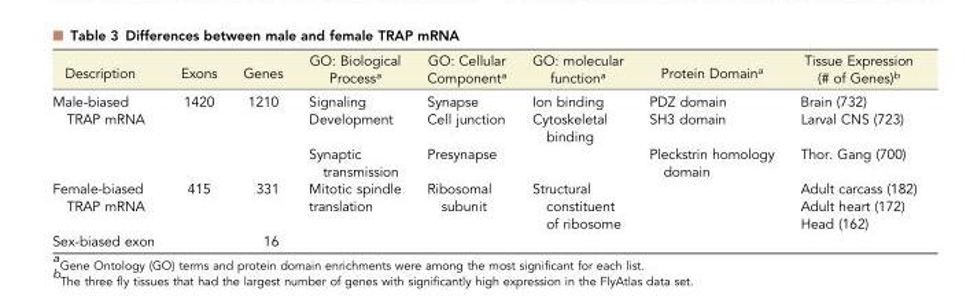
<table><thead><tr><td>Description</td><td>Exons</td><td>Genes</td><td>GO: Biological Process<sup>a</sup></td><td>GO: Cellular Component<sup>a</sup></td><td>GO: molecular function<sup>a</sup></td><td>Protein Domain<sup>a</sup></td><td>Tissue Expression (# of Genes)<sup>b</sup></td></tr></thead><tbody><tr><td rowspan="3">Male-biased TRAP mRNA</td><td rowspan="3">1420</td><td rowspan="3">1210</td><td>Signaling</td><td>Synapse</td><td>Ion binding</td><td>PDZ domain</td><td>Brain (732)</td></tr><tr><td>Development</td><td>Cell junction</td><td>Cytoskeletal binding</td><td>SH3 domain</td><td>Larval CNS (723)</td></tr><tr><td>Synaptic transmission</td><td>Presynapse</td><td></td><td>Pleckstrin homology domain</td><td>Thor. Gang (700)</td></tr><tr><td rowspan="3">Female-biased TRAP mRNA</td><td rowspan="3">415</td><td rowspan="3">331</td><td>Mitotic spindle</td><td rowspan="3">Ribosomal subunit</td><td rowspan="3">Structural constituent of ribosome</td><td rowspan="3"></td><td>Adult carcass (182)</td></tr><tr><td>translation</td><td>Adult heart (172)</td></tr><tr><td></td><td>Head (162)</td></tr><tr><td>Sex-biased exon</td><td></td><td>16</td><td></td><td></td><td></td><td></td><td></td></tr></tbody></table>